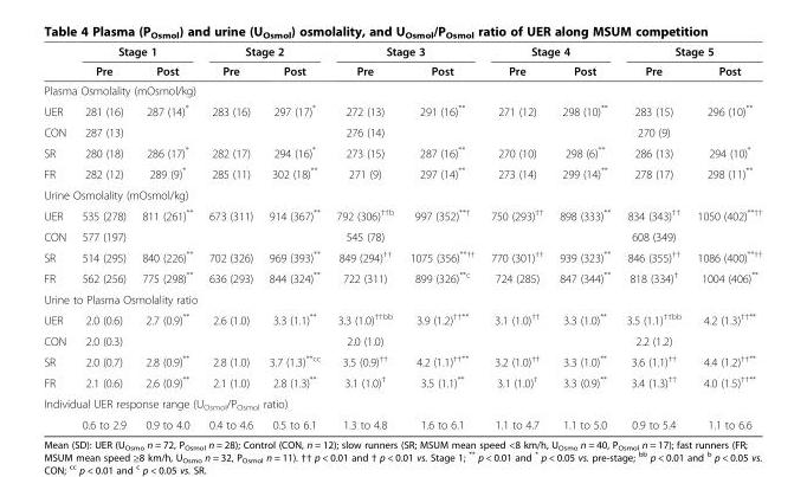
<table><thead><tr><td rowspan="2"></td><td colspan="2">Stage 1</td><td colspan="2">Stage 2</td><td colspan="2">Stage 3</td><td colspan="2">Stage 4</td><td colspan="2">Stage 5</td></tr><tr><td>Pre</td><td>Post</td><td>Pre</td><td>Post</td><td>Pre</td><td>Post</td><td>Pre</td><td>Post</td><td>Pre</td><td>Post</td></tr></thead><tbody><tr><td colspan="11">Plasma Osmolality (mOsmol/kg)</td></tr><tr><td>UER</td><td>281 (16)</td><td>287 (14)*</td><td>283 (16)</td><td>297 (17)*</td><td>272 (13)</td><td>291 (16)**</td><td>271 (12)</td><td>298 (10)**</td><td>283 (15)</td><td>296 (10)**</td></tr><tr><td>CON</td><td>287 (13)</td><td></td><td></td><td></td><td>276 (14)</td><td></td><td></td><td></td><td>270 (9)</td><td></td></tr><tr><td>SR</td><td>280 (18)</td><td>286 (17)*</td><td>282 (17)</td><td>294 (16)*</td><td>273 (15)</td><td>287 (16)**</td><td>270 (10)</td><td>298 (6)**</td><td>286 (13)</td><td>294 (10)*</td></tr><tr><td>FR</td><td>282 (12)</td><td>289 (9)*</td><td>285 (11)</td><td>302 (18)**</td><td>271 (9)</td><td>297 (14)**</td><td>273 (14)</td><td>299 (14)**</td><td>278 (17)</td><td>298 (11)**</td></tr><tr><td colspan="11">Urine Osmolality (mOsmol/kg)</td></tr><tr><td>UER</td><td>535 (278)</td><td>811 (261)**</td><td>673 (311)</td><td>914 (367)**</td><td>792 (306)<sup>††b</sup></td><td>997 (352)<sup>**†</sup></td><td>750 (293)<sup>††</sup></td><td>898 (333)**</td><td>834 (343)<sup>††</sup></td><td>1050 (402)<sup>**††</sup></td></tr><tr><td>CON</td><td>577 (197)</td><td></td><td></td><td></td><td>545 (78)</td><td></td><td></td><td></td><td>608 (349)</td><td></td></tr><tr><td>SR</td><td>514 (295)</td><td>840 (226)**</td><td>702 (326)</td><td>969 (393)**</td><td>849 (294)<sup>††</sup></td><td>1075 (356)<sup>**††</sup></td><td>770 (301)<sup>††</sup></td><td>939 (323)**</td><td>846 (355)<sup>††</sup></td><td>1086 (400)<sup>**††</sup></td></tr><tr><td>FR</td><td>562 (256)</td><td>775 (298)**</td><td>636 (293)</td><td>844 (324)**</td><td>722 (311)</td><td>899 (326)<sup>**c</sup></td><td>724 (285)</td><td>847 (344)**</td><td>818 (334)<sup>†</sup></td><td>1004 (406)**</td></tr><tr><td colspan="11">Urine to Plasma Osmolality ratio</td></tr><tr><td>UER</td><td>2.0 (0.6)</td><td>2.7 (0.9)**</td><td>2.6 (1.0)</td><td>3.3 (1.1)**</td><td>3.3 (1.0)<sup>††bb</sup></td><td>3.9 (1.2)<sup>††**</sup></td><td>3.1 (1.0)<sup>††</sup></td><td>3.3 (1.0)**</td><td>3.5 (1.1)<sup>††bb</sup></td><td>4.2 (1.3)<sup>††**</sup></td></tr><tr><td>CON</td><td>2.0 (0.3)</td><td></td><td></td><td></td><td>2.0 (1.0)</td><td></td><td></td><td></td><td>2.2 (1.2)</td><td></td></tr><tr><td>SR</td><td>2.0 (0.7)</td><td>2.8 (0.9)**</td><td>2.8 (1.0)</td><td>3.7 (1.3)<sup>**cc</sup></td><td>3.5 (0.9)<sup>††</sup></td><td>4.2 (1.1)<sup>††**</sup></td><td>3.2 (1.0)<sup>††</sup></td><td>3.3 (1.0)**</td><td>3.6 (1.1)<sup>††</sup></td><td>4.4 (1.2)<sup>††**</sup></td></tr><tr><td>FR</td><td>2.1 (0.6)</td><td>2.6 (0.9)**</td><td>2.1 (1.0)</td><td>2.8 (1.3)**</td><td>3.1 (1.0)<sup>†</sup></td><td>3.5 (1.1)**</td><td>3.1 (1.0)<sup>†</sup></td><td>3.3 (0.9)**</td><td>3.4 (1.3)<sup>††</sup></td><td>4.0 (1.5)<sup>††**</sup></td></tr><tr><td colspan="11">Individual UER response range (U<sub>Osmol</sub>/P<sub>Osmol</sub> ratio)</td></tr><tr><td></td><td>0.6 to 2.9</td><td>0.9 to 4.0</td><td>0.4 to 4.6</td><td>0.5 to 6.1</td><td>1.3 to 4.8</td><td>1.6 to 6.1</td><td>1.1 to 4.7</td><td>1.1 to 5.0</td><td>0.9 to 5.4</td><td>1.1 to 6.6</td></tr></tbody></table>